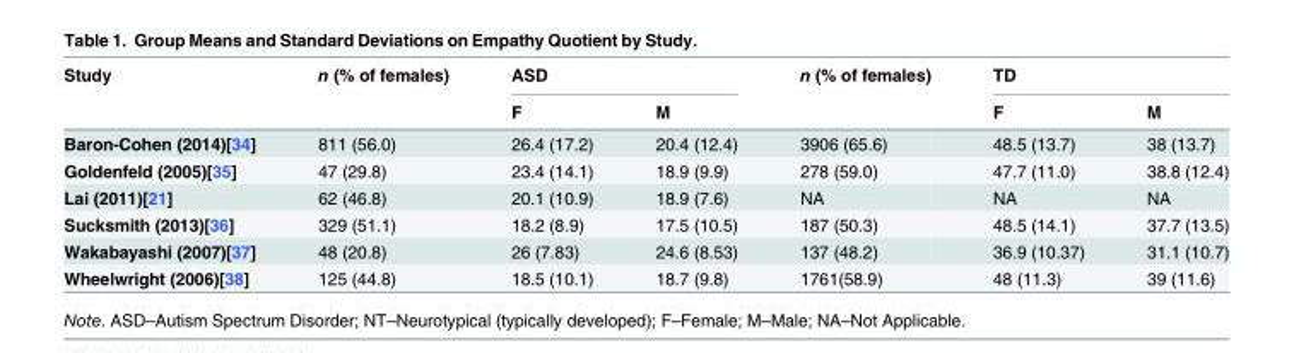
<table><thead><tr><td rowspan="2">Study</td><td rowspan="2">n (% of females)</td><td colspan="2">ASD</td><td rowspan="2">n (% of females)</td><td colspan="2">TD</td></tr><tr><td>F</td><td>M</td><td>F</td><td>M</td></tr></thead><tbody><tr><td>Baron-Cohen (2014)[34]</td><td>811 (56.0)</td><td>26.4 (17.2)</td><td>20.4 (12.4)</td><td>3906 (65.6)</td><td>48.5 (13.7)</td><td>38 (13.7)</td></tr><tr><td>Goldenfeld (2005)[35]</td><td>47 (29.8)</td><td>23.4 (14.1)</td><td>18.9 (9.9)</td><td>278 (59.0)</td><td>47.7 (11.0)</td><td>38.8 (12.4)</td></tr><tr><td>Lai (2011)[21]</td><td>62 (46.8)</td><td>20.1 (10.9)</td><td>18.9 (7.6)</td><td>NA</td><td>NA</td><td>NA</td></tr><tr><td>Sucksmith (2013)[36]</td><td>329 (51.1)</td><td>18.2 (8.9)</td><td>17.5 (10.5)</td><td>187 (50.3)</td><td>48.5 (14.1)</td><td>37.7 (13.5)</td></tr><tr><td>Wakabayashi (2007)[37]</td><td>48 (20.8)</td><td>26 (7.83)</td><td>24.6 (8.53)</td><td>137 (48.2)</td><td>36.9 (10.37)</td><td>31.1 (10.7)</td></tr><tr><td>Wheelwright (2006)[38]</td><td>125 (44.8)</td><td>18.5 (10.1)</td><td>18.7 (9.8)</td><td>1761(58.9)</td><td>48 (11.3)</td><td>39 (11.6)</td></tr></tbody></table>